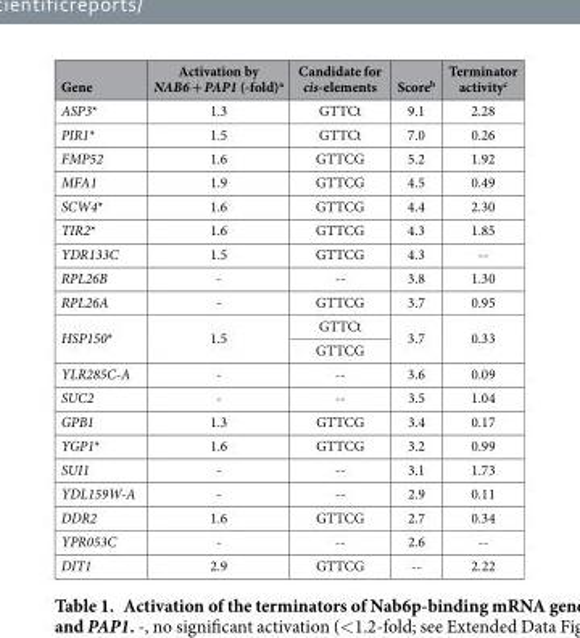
<table><thead><tr><td>Gene</td><td>Activation by NAB6 + PAP1 (-fold)<sup>a</sup></td><td>Candidate for cis-elements</td><td>Score<sup>b</sup></td><td>Terminator activity<sup>c</sup></td></tr></thead><tbody><tr><td>ASP3*</td><td>1.3</td><td>GTTCt</td><td>9.1</td><td>2.28</td></tr><tr><td>PIR1*</td><td>1.5</td><td>GTTCt</td><td>7.0</td><td>0.26</td></tr><tr><td>FMP52</td><td>1.6</td><td>GTTCG</td><td>5.2</td><td>1.92</td></tr><tr><td>MFA1</td><td>1.9</td><td>GTTCG</td><td>4.5</td><td>0.49</td></tr><tr><td>SCW4*</td><td>1.6</td><td>GTTCG</td><td>4.4</td><td>2.30</td></tr><tr><td>TIR2*</td><td>1.6</td><td>GTTCG</td><td>4.3</td><td>1.85</td></tr><tr><td>YDR133C</td><td>1.5</td><td>GTTCG</td><td>4.3</td><td>--</td></tr><tr><td>RPL26B</td><td>-</td><td>--</td><td>3.8</td><td>1.30</td></tr><tr><td>RPL26A</td><td>-</td><td>GTTCG</td><td>3.7</td><td>0.95</td></tr><tr><td rowspan="2">HSP150*</td><td rowspan="2">1.5</td><td>GTTCt</td><td rowspan="2">3.7</td><td rowspan="2">0.33</td></tr><tr><td>GTTCG</td></tr><tr><td>YLR285C-A</td><td>-</td><td>--</td><td>3.6</td><td>0.09</td></tr><tr><td>SUC2</td><td>-</td><td>--</td><td>3.5</td><td>1.04</td></tr><tr><td>GPB1</td><td>1.3</td><td>GTTCG</td><td>3.4</td><td>0.17</td></tr><tr><td>YGP1*</td><td>1.6</td><td>GTTCG</td><td>3.2</td><td>0.99</td></tr><tr><td>SUI1</td><td>-</td><td>--</td><td>3.1</td><td>1.73</td></tr><tr><td>YDL159W-A</td><td>-</td><td>--</td><td>2.9</td><td>0.11</td></tr><tr><td>DDR2</td><td>1.6</td><td>GTTCG</td><td>2.7</td><td>0.34</td></tr><tr><td>YPR053C</td><td>-</td><td>--</td><td>2.6</td><td>--</td></tr><tr><td>DIT1</td><td>2.9</td><td>GTTCG</td><td>--</td><td>2.22</td></tr></tbody></table>